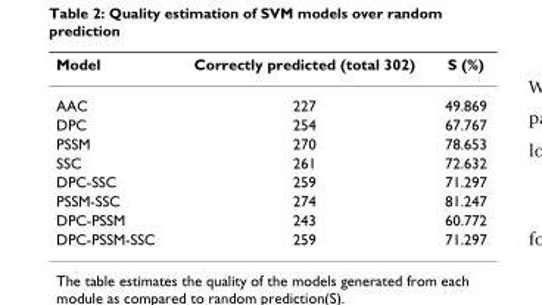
<table><thead><tr><td>Model</td><td>Correctly predicted (total 302)</td><td>S (%)</td></tr></thead><tbody><tr><td>AAC</td><td>227</td><td>49.869</td></tr><tr><td>DPC</td><td>254</td><td>67.767</td></tr><tr><td>PSSM</td><td>270</td><td>78.653</td></tr><tr><td>SSC</td><td>261</td><td>72.632</td></tr><tr><td>DPC-SSC</td><td>259</td><td>71.297</td></tr><tr><td>PSSM-SSC</td><td>274</td><td>81.247</td></tr><tr><td>DPC-PSSM</td><td>243</td><td>60.772</td></tr><tr><td>DPC-PSSM-SSC</td><td>259</td><td>71.297</td></tr></tbody></table>